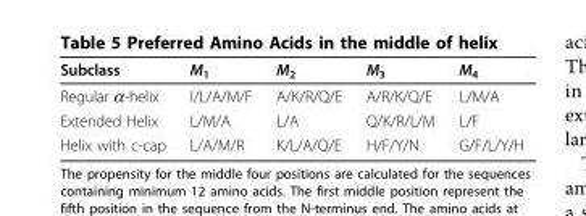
<table><thead><tr><td>Subclass</td><td>M<sub>1</sub></td><td>M<sub>2</sub></td><td>M<sub>3</sub></td><td>M<sub>4</sub></td></tr></thead><tbody><tr><td>Regular α-helix</td><td>I/L/A/M/F</td><td>A/K/R/Q/E</td><td>A/R/K/Q/E</td><td>L/M/A</td></tr><tr><td>Extended Helix</td><td>L/M/A</td><td>L/A</td><td>Q/K/R/L/M</td><td>L/F</td></tr><tr><td>Helix with c-cap</td><td>L/A/M/R</td><td>K/L/A/Q/E</td><td>H/F/Y/N</td><td>G/F/L/Y/H</td></tr></tbody></table>